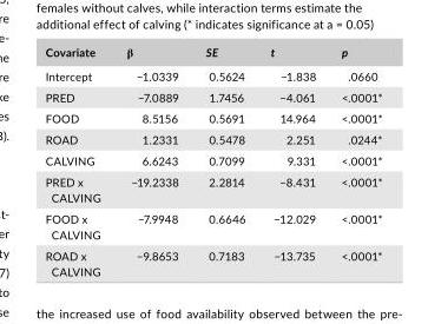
<table><thead><tr><td>Covariate</td><td>β</td><td>SE</td><td>t</td><td>p</td></tr></thead><tbody><tr><td>Intercept</td><td>−1.0339</td><td>0.5624</td><td>−1.838</td><td>.0660</td></tr><tr><td>PRED</td><td>−7.0889</td><td>1.7456</td><td>−4.061</td><td>&lt;.0001*</td></tr><tr><td>FOOD</td><td>8.5156</td><td>0.5691</td><td>14.964</td><td>&lt;.0001*</td></tr><tr><td>ROAD</td><td>1.2331</td><td>0.5478</td><td>2.251</td><td>.0244*</td></tr><tr><td>CALVING</td><td>6.6243</td><td>0.7099</td><td>9.331</td><td>&lt;.0001*</td></tr><tr><td>PRED x CALVING</td><td>−19.2338</td><td>2.2814</td><td>−8.431</td><td>&lt;.0001*</td></tr><tr><td>FOOD x CALVING</td><td>−7.9948</td><td>0.6646</td><td>−12.029</td><td>&lt;.0001*</td></tr><tr><td>ROAD x CALVING</td><td>−9.8653</td><td>0.7183</td><td>−13.735</td><td>&lt;.0001*</td></tr></tbody></table>